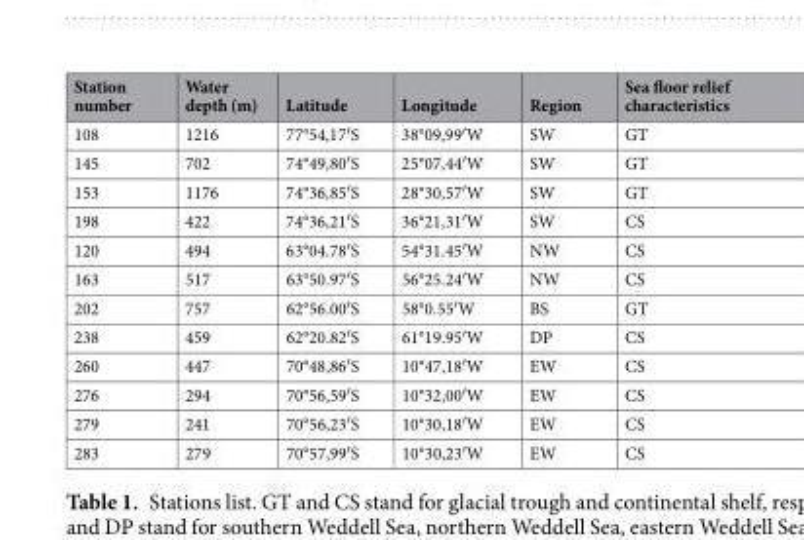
<table><thead><tr><td>Station number</td><td>Water depth (m)</td><td>Latitude</td><td>Longitude</td><td>Region</td><td>Sea floor relief characteristics</td></tr></thead><tbody><tr><td>108</td><td>1216</td><td>77°54,17′S</td><td>38°09,99′W</td><td>SW</td><td>GT</td></tr><tr><td>145</td><td>702</td><td>74°49,80′S</td><td>25°07,44′W</td><td>SW</td><td>GT</td></tr><tr><td>153</td><td>1176</td><td>74°36,85′S</td><td>28°30,57′W</td><td>SW</td><td>GT</td></tr><tr><td>198</td><td>422</td><td>74°36,21′S</td><td>36°21,31′W</td><td>SW</td><td>CS</td></tr><tr><td>120</td><td>494</td><td>63°04.78′S</td><td>54°31.45′W</td><td>NW</td><td>CS</td></tr><tr><td>163</td><td>517</td><td>63°50.97′S</td><td>56°25.24′W</td><td>NW</td><td>CS</td></tr><tr><td>202</td><td>757</td><td>62°56.00′S</td><td>58°0.55′W</td><td>BS</td><td>GT</td></tr><tr><td>238</td><td>459</td><td>62°20.82′S</td><td>61°19.95′W</td><td>DP</td><td>CS</td></tr><tr><td>260</td><td>447</td><td>70°48,86′S</td><td>10°47,18′W</td><td>EW</td><td>CS</td></tr><tr><td>276</td><td>294</td><td>70°56,59′S</td><td>10°32,00′W</td><td>EW</td><td>CS</td></tr><tr><td>279</td><td>241</td><td>70°56,23′S</td><td>10°30,18′W</td><td>EW</td><td>CS</td></tr><tr><td>283</td><td>279</td><td>70°57,99′S</td><td>10°30,23′W</td><td>EW</td><td>CS</td></tr></tbody></table>